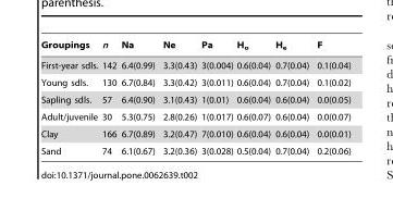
<table><thead><tr><td>Groupings</td><td>n</td><td>Na</td><td>Ne</td><td>Pa</td><td>H<sub>o</sub></td><td>H<sub>e</sub></td><td>F</td></tr></thead><tbody><tr><td>First-year sdls.</td><td>142</td><td>6.4(0.99)</td><td>3.3(0.43)</td><td>3(0.004)</td><td>0.6(0.04)</td><td>0.7(0.04)</td><td>0.1(0.04)</td></tr><tr><td>Young sdls.</td><td>130</td><td>6.7(0.84)</td><td>3.3(0.42)</td><td>3(0.011)</td><td>0.6(0.04)</td><td>0.7(0.04)</td><td>0.1(0.02)</td></tr><tr><td>Sapling sdls.</td><td>57</td><td>6.4(0.90)</td><td>3.1(0.43)</td><td>1(0.01)</td><td>0.6(0.04)</td><td>0.6(0.04)</td><td>0.0(0.05)</td></tr><tr><td>Adult/juvenile</td><td>30</td><td>5.3(0.75)</td><td>2.8(0.26)</td><td>1(0.017)</td><td>0.6(0.07)</td><td>0.6(0.04)</td><td>0.0(0.07)</td></tr><tr><td>Clay</td><td>166</td><td>6.7(0.89)</td><td>3.2(0.47)</td><td>7(0.010)</td><td>0.6(0.04)</td><td>0.6(0.04)</td><td>0.0(0.01)</td></tr><tr><td>Sand</td><td>74</td><td>6.1(0.67)</td><td>3.2(0.36)</td><td>3(0.028)</td><td>0.5(0.04)</td><td>0.7(0.04)</td><td>0.2(0.06)</td></tr></tbody></table>